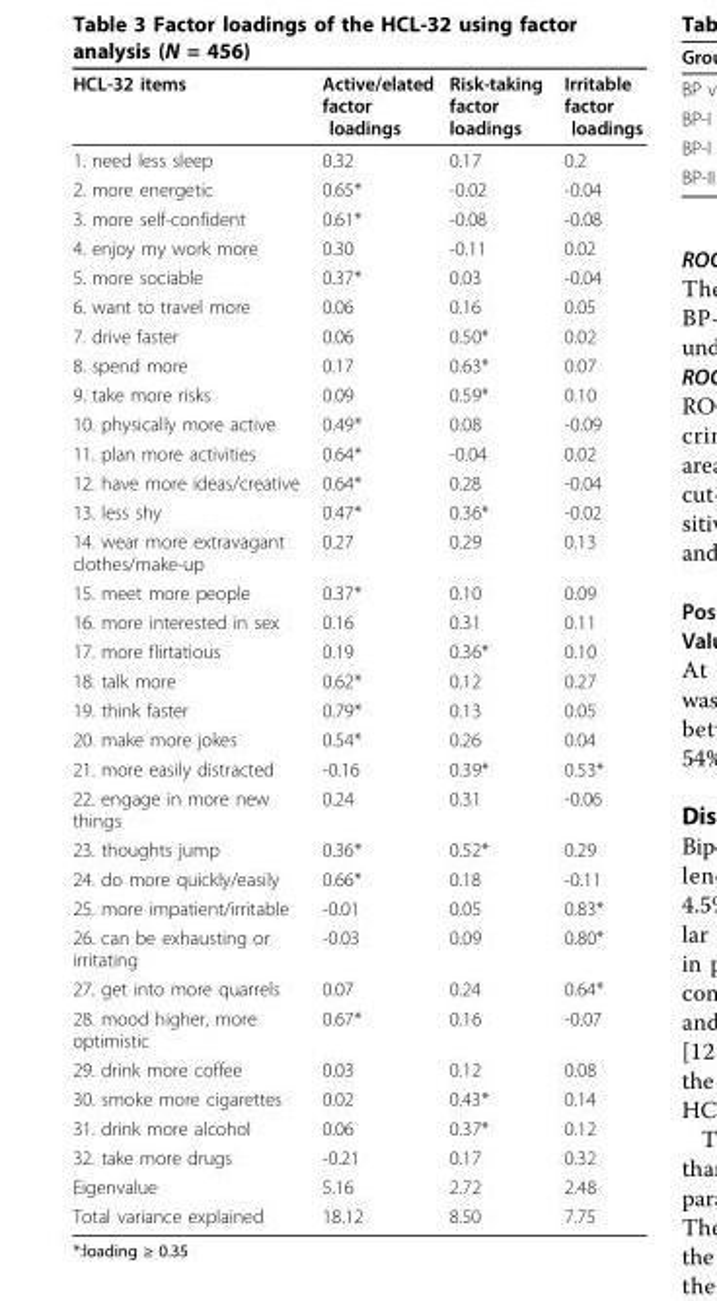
<table><thead><tr><td>HCL-32 items</td><td>Active/elated factor loadings</td><td>Risk-taking factor loadings</td><td>Irritable factor loadings</td></tr></thead><tbody><tr><td>1. need less sleep</td><td>0.32</td><td>0.17</td><td>0.2</td></tr><tr><td>2. more energetic</td><td>0.65*</td><td>-0.02</td><td>-0.04</td></tr><tr><td>3. more self-confident</td><td>0.61*</td><td>-0.08</td><td>-0.08</td></tr><tr><td>4. enjoy my work more</td><td>0.30</td><td>-0.11</td><td>0.02</td></tr><tr><td>5. more sociable</td><td>0.37*</td><td>0.03</td><td>-0.04</td></tr><tr><td>6. want to travel more</td><td>0.06</td><td>0.16</td><td>0.05</td></tr><tr><td>7. drive faster</td><td>0.06</td><td>0.50*</td><td>0.02</td></tr><tr><td>8. spend more</td><td>0.17</td><td>0.63*</td><td>0.07</td></tr><tr><td>9. take more risks</td><td>0.09</td><td>0.59*</td><td>0.10</td></tr><tr><td>10. physically more active</td><td>0.49*</td><td>0.08</td><td>-0.09</td></tr><tr><td>11. plan more activities</td><td>0.64*</td><td>-0.04</td><td>0.02</td></tr><tr><td>12. have more ideas/creative</td><td>0.64*</td><td>0.28</td><td>-0.04</td></tr><tr><td>13. less shy</td><td>0.47*</td><td>0.36*</td><td>-0.02</td></tr><tr><td>14. wear more extravagant clothes/make-up</td><td>0.27</td><td>0.29</td><td>0.13</td></tr><tr><td>15. meet more people</td><td>0.37*</td><td>0.10</td><td>0.09</td></tr><tr><td>16. more interested in sex</td><td>0.16</td><td>0.31</td><td>0.11</td></tr><tr><td>17. more flirtatious</td><td>0.19</td><td>0.36*</td><td>0.10</td></tr><tr><td>18. talk more</td><td>0.62*</td><td>0.12</td><td>0.27</td></tr><tr><td>19. think faster</td><td>0.79*</td><td>0.13</td><td>0.05</td></tr><tr><td>20. make more jokes</td><td>0.54*</td><td>0.26</td><td>0.04</td></tr><tr><td>21. more easily distracted</td><td>-0.16</td><td>0.39*</td><td>0.53*</td></tr><tr><td>22. engage in more new things</td><td>0.24</td><td>0.31</td><td>-0.06</td></tr><tr><td>23. thoughts jump</td><td>0.36*</td><td>0.52*</td><td>0.29</td></tr><tr><td>24. do more quickly/easily</td><td>0.66*</td><td>0.18</td><td>-0.11</td></tr><tr><td>25. more impatient/irritable</td><td>-0.01</td><td>0.05</td><td>0.83*</td></tr><tr><td>26. can be exhausting or irritating</td><td>-0.03</td><td>0.09</td><td>0.80*</td></tr><tr><td>27. get into more quarrels</td><td>0.07</td><td>0.24</td><td>0.64*</td></tr><tr><td>28. mood higher, more optimistic</td><td>0.67*</td><td>0.16</td><td>-0.07</td></tr><tr><td>29. drink more coffee</td><td>0.03</td><td>0.12</td><td>0.08</td></tr><tr><td>30. smoke more cigarettes</td><td>0.02</td><td>0.43*</td><td>0.14</td></tr><tr><td>31. drink more alcohol</td><td>0.06</td><td>0.37*</td><td>0.12</td></tr><tr><td>32. take more drugs</td><td>-0.21</td><td>0.17</td><td>0.32</td></tr><tr><td>Eigenvalue</td><td>5.16</td><td>2.72</td><td>2.48</td></tr><tr><td>Total variance explained</td><td>18.12</td><td>8.50</td><td>7.75</td></tr></tbody></table>